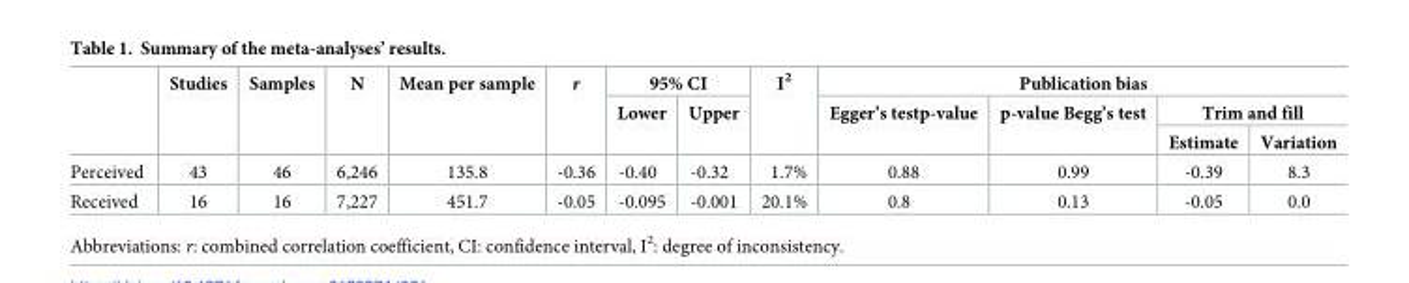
<table><thead><tr><td rowspan="3"></td><td rowspan="3">Studies</td><td rowspan="3">Samples</td><td rowspan="3">N</td><td rowspan="3">Mean per sample</td><td rowspan="3">r</td><td colspan="2">95% CI</td><td rowspan="3">I<sup>2</sup></td><td colspan="4">Publication bias</td></tr><tr><td rowspan="2">Lower</td><td rowspan="2">Upper</td><td rowspan="2">Egger’s testp-value</td><td rowspan="2">p-value Begg’s test</td><td colspan="2">Trim and fill</td></tr><tr><td>Estimate</td><td>Variation</td></tr></thead><tbody><tr><td>Perceived</td><td>43</td><td>46</td><td>6,246</td><td>135.8</td><td>-0.36</td><td>-0.40</td><td>-0.32</td><td>1.7%</td><td>0.88</td><td>0.99</td><td>-0.39</td><td>8.3</td></tr><tr><td>Received</td><td>16</td><td>16</td><td>7,227</td><td>451.7</td><td>-0.05</td><td>-0.095</td><td>-0.001</td><td>20.1%</td><td>0.8</td><td>0.13</td><td>-0.05</td><td>0.0</td></tr></tbody></table>